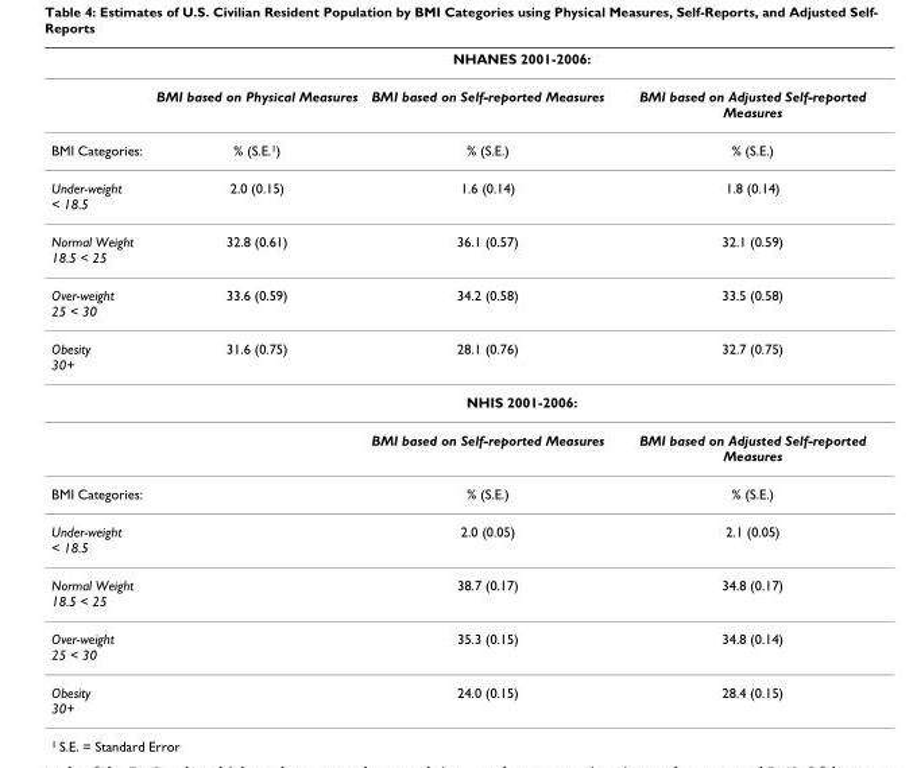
<table><thead><tr><td rowspan="2"></td><td colspan="3">NHANES 2001-2006:</td></tr><tr><td>BMI based on Physical Measures</td><td>BMI based on Self-reported Measures</td><td>BMI based on Adjusted Self-reported Measures</td></tr></thead><tbody><tr><td>BMI Categories:</td><td>% (S.E.<sup>1</sup>)</td><td>% (S.E.)</td><td>% (S.E.)</td></tr><tr><td>Under-weight &lt; 18.5</td><td>2.0 (0.15)</td><td>1.6 (0.14)</td><td>1.8 (0.14)</td></tr><tr><td>Normal Weight 18.5 &lt; 25</td><td>32.8 (0.61)</td><td>36.1 (0.57)</td><td>32.1 (0.59)</td></tr><tr><td>Over-weight 25 &lt; 30</td><td>33.6 (0.59)</td><td>34.2 (0.58)</td><td>33.5 (0.58)</td></tr><tr><td rowspan="3">Obesity 30+</td><td>31.6 (0.75)</td><td>28.1 (0.76)</td><td>32.7 (0.75)</td></tr><tr><td colspan="3">NHIS 2001-2006:</td></tr><tr><td></td><td>BMI based on Self-reported Measures</td><td>BMI based on Adjusted Self-reported Measures</td></tr><tr><td>BMI Categories:</td><td></td><td>% (S.E.)</td><td>% (S.E.)</td></tr><tr><td>Under-weight &lt; 18.5</td><td></td><td>2.0 (0.05)</td><td>2.1 (0.05)</td></tr><tr><td>Normal Weight 18.5 &lt; 25</td><td></td><td>38.7 (0.17)</td><td>34.8 (0.17)</td></tr><tr><td>Over-weight 25 &lt; 30</td><td></td><td>35.3 (0.15)</td><td>34.8 (0.14)</td></tr><tr><td>Obesity 30+</td><td></td><td>24.0 (0.15)</td><td>28.4 (0.15)</td></tr></tbody></table>